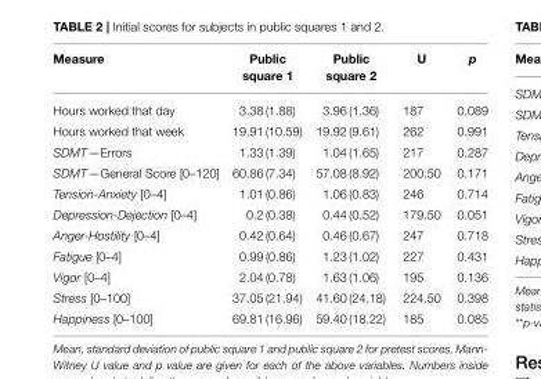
<table><thead><tr><td>Measure</td><td>Public square 1</td><td>Public square 2</td><td>U</td><td>p</td></tr></thead><tbody><tr><td>Hours worked that day</td><td>3.38 (1.88)</td><td>3.96 (1.36)</td><td>187</td><td>0.089</td></tr><tr><td>Hours worked that week</td><td>19.91 (10.59)</td><td>19.92 (9.61)</td><td>262</td><td>0.991</td></tr><tr><td>SDMT—Errors</td><td>1.33 (1.39)</td><td>1.04 (1.65)</td><td>217</td><td>0.287</td></tr><tr><td>SDMT—General Score [0–120]</td><td>60.86 (7.34)</td><td>57.08 (8.92)</td><td>200.50</td><td>0.171</td></tr><tr><td>Tension-Anxiety [0–4]</td><td>1.01 (0.86)</td><td>1.06 (0.83)</td><td>246</td><td>0.714</td></tr><tr><td>Depression-Dejection [0–4]</td><td>0.2 (0.38)</td><td>0.44 (0.52)</td><td>179.50</td><td>0.051</td></tr><tr><td>Anger-Hostility [0–4]</td><td>0.42 (0.64)</td><td>0.46 (0.67)</td><td>247</td><td>0.718</td></tr><tr><td>Fatigue [0–4]</td><td>0.99 (0.86)</td><td>1.23 (1.02)</td><td>227</td><td>0.431</td></tr><tr><td>Vigor [0–4]</td><td>2.04 (0.78)</td><td>1.63 (1.06)</td><td>195</td><td>0.136</td></tr><tr><td>Stress [0–100]</td><td>37.05 (21.94)</td><td>41.60 (24.18)</td><td>224.50</td><td>0.398</td></tr><tr><td>Happiness [0–100]</td><td>69.81 (16.96)</td><td>59.40 (18.22)</td><td>185</td><td>0.085</td></tr></tbody></table>